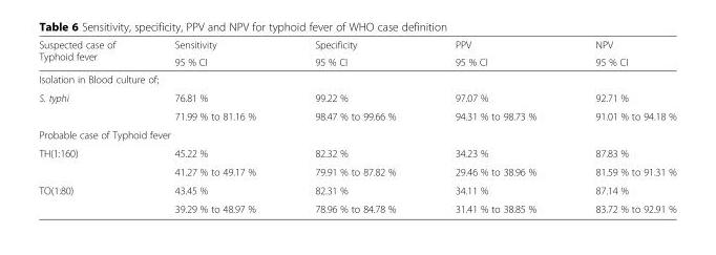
<table><thead><tr><td rowspan="2">Suspected case of Typhoid fever</td><td rowspan="2">Sensitivity 95 % CI</td><td rowspan="2">Specificity 95 % CI</td><td rowspan="2">PPV 95 % CI</td><td rowspan="2">NPV 95 % CI</td></tr><tr></tr></thead><tbody><tr><td colspan="5">Isolation in Blood culture of;</td></tr><tr><td rowspan="2">S. typhi</td><td>76.81 %</td><td>99.22 %</td><td>97.07 %</td><td>92.71 %</td></tr><tr><td>71.99 % to 81.16 %</td><td>98.47 % to 99.66 %</td><td>94.31 % to 98.73 %</td><td>91.01 % to 94.18 %</td></tr><tr><td colspan="5">Probable case of Typhoid fever</td></tr><tr><td rowspan="2">TH(1:160)</td><td>45.22 %</td><td>82.32 %</td><td>34.23 %</td><td>87.83 %</td></tr><tr><td>41.27 % to 49.17 %</td><td>79.91 % to 87.82 %</td><td>29.46 % to 38.96 %</td><td>81.59 % to 91.31 %</td></tr><tr><td rowspan="2">TO(1:80)</td><td>43.45 %</td><td>82.31 %</td><td>34.11 %</td><td>87.14 %</td></tr><tr><td>39.29 % to 48.97 %</td><td>78.96 % to 84.78 %</td><td>31.41 % to 38.85 %</td><td>83.72 % to 92.91 %</td></tr></tbody></table>